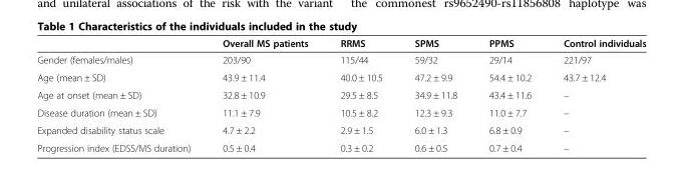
<table><thead><tr><td></td><td>Overall MS patients</td><td>RRMS</td><td>SPMS</td><td>PPMS</td><td>Control individuals</td></tr></thead><tbody><tr><td>Gender (females/males)</td><td>203/90</td><td>115/44</td><td>59/32</td><td>29/14</td><td>221/97</td></tr><tr><td>Age (mean ± SD)</td><td>43.9 ± 11.4</td><td>40.0 ± 10.5</td><td>47.2 ± 9.9</td><td>54.4 ± 10.2</td><td>43.7 ± 12.4</td></tr><tr><td>Age at onset (mean ± SD)</td><td>32.8 ± 10.9</td><td>29.5 ± 8.5</td><td>34.9 ± 11.8</td><td>43.4 ± 11.6</td><td>–</td></tr><tr><td>Disease duration (mean ± SD)</td><td>11.1 ± 7.9</td><td>10.5 ± 8.2</td><td>12.3 ± 9.3</td><td>11.0 ± 7.7</td><td>–</td></tr><tr><td>Expanded disability status scale</td><td>4.7 ± 2.2</td><td>2.9 ± 1.5</td><td>6.0 ± 1.3</td><td>6.8 ± 0.9</td><td>–</td></tr><tr><td>Progression index (EDSS/MS duration)</td><td>0.5 ± 0.4</td><td>0.3 ± 0.2</td><td>0.6 ± 0.5</td><td>0.7 ± 0.4</td><td>–</td></tr></tbody></table>